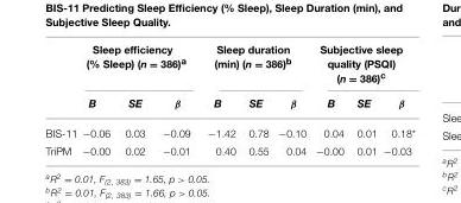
<table><thead><tr><td rowspan="2"></td><td colspan="3">Sleep efficiency (% Sleep) (n = 386)<sup>a</sup></td><td colspan="3">Sleep duration (min) (n = 386)<sup>b</sup></td><td colspan="3">Subjective sleep quality (PSQI) (n = 386)<sup>c</sup></td></tr><tr><td>B</td><td>SE</td><td>β</td><td>B</td><td>SE</td><td>β</td><td>B</td><td>SE</td><td>β</td></tr></thead><tbody><tr><td>BIS-11</td><td>−0.06</td><td>0.03</td><td>−0.09</td><td>−1.42</td><td>0.78</td><td>−0.10</td><td>0.04</td><td>0.01</td><td>0.18*</td></tr><tr><td>TriPM</td><td>−0.00</td><td>0.02</td><td>−0.01</td><td>0.40</td><td>0.55</td><td>0.04</td><td>−0.00</td><td>0.01</td><td>−0.03</td></tr></tbody></table>